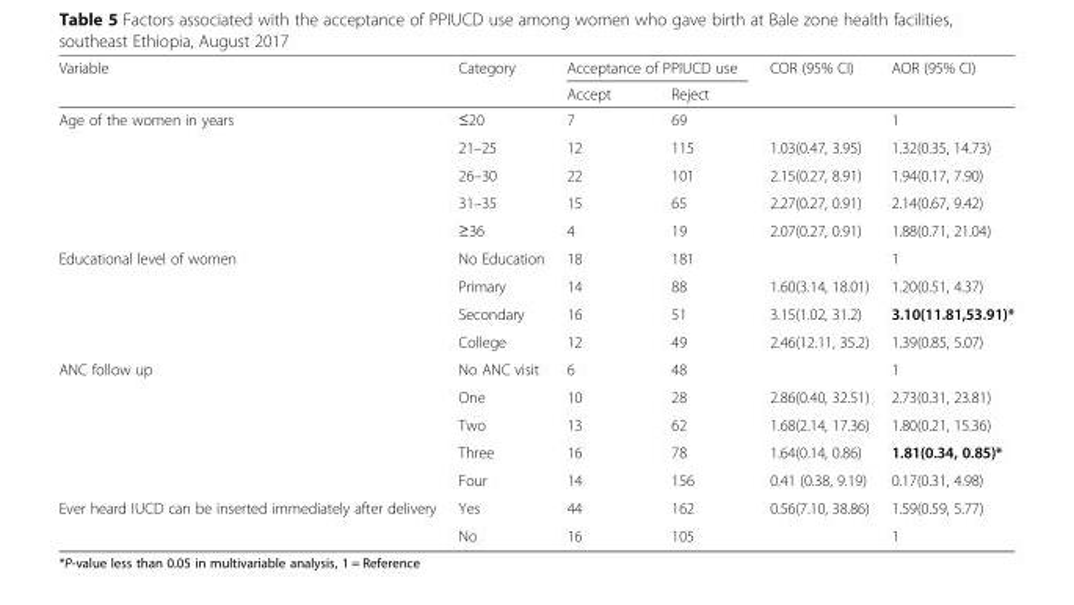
<table><thead><tr><td rowspan="2">Variable</td><td rowspan="2">Category</td><td colspan="2">Acceptance of PPIUCD use</td><td rowspan="2">COR (95% CI)</td><td rowspan="2">AOR (95% CI)</td></tr><tr><td>Accept</td><td>Reject</td></tr></thead><tbody><tr><td rowspan="5">Age of the women in years</td><td>≤20</td><td>7</td><td>69</td><td></td><td>1</td></tr><tr><td>21–25</td><td>12</td><td>115</td><td>1.03(0.47, 3.95)</td><td>1.32(0.35, 14.73)</td></tr><tr><td>26–30</td><td>22</td><td>101</td><td>2.15(0.27, 8.91)</td><td>1.94(0.17, 7.90)</td></tr><tr><td>31–35</td><td>15</td><td>65</td><td>2.27(0.27, 0.91)</td><td>2.14(0.67, 9.42)</td></tr><tr><td>≥36</td><td>4</td><td>19</td><td>2.07(0.27, 0.91)</td><td>1.88(0.71, 21.04)</td></tr><tr><td rowspan="4">Educational level of women</td><td>No Education</td><td>18</td><td>181</td><td></td><td>1</td></tr><tr><td>Primary</td><td>14</td><td>88</td><td>1.60(3.14, 18.01)</td><td>1.20(0.51, 4.37)</td></tr><tr><td>Secondary</td><td>16</td><td>51</td><td>3.15(1.02, 31.2)</td><td>3.10(11.81,53.91)*</td></tr><tr><td>College</td><td>12</td><td>49</td><td>2.46(12.11, 35.2)</td><td>1.39(0.85, 5.07)</td></tr><tr><td rowspan="5">ANC follow up</td><td>No ANC visit</td><td>6</td><td>48</td><td></td><td>1</td></tr><tr><td>One</td><td>10</td><td>28</td><td>2.86(0.40, 32.51)</td><td>2.73(0.31, 23.81)</td></tr><tr><td>Two</td><td>13</td><td>62</td><td>1.68(2.14, 17.36)</td><td>1.80(0.21, 15.36)</td></tr><tr><td>Three</td><td>16</td><td>78</td><td>1.64(0.14, 0.86)</td><td>1.81(0.34, 0.85)*</td></tr><tr><td>Four</td><td>14</td><td>156</td><td>0.41 (0.38, 9.19)</td><td>0.17(0.31, 4.98)</td></tr><tr><td rowspan="2">Ever heard IUCD can be inserted immediately after delivery</td><td>Yes</td><td>44</td><td>162</td><td>0.56(7.10, 38.86)</td><td>1.59(0.59, 5.77)</td></tr><tr><td>No</td><td>16</td><td>105</td><td></td><td>1</td></tr></tbody></table>